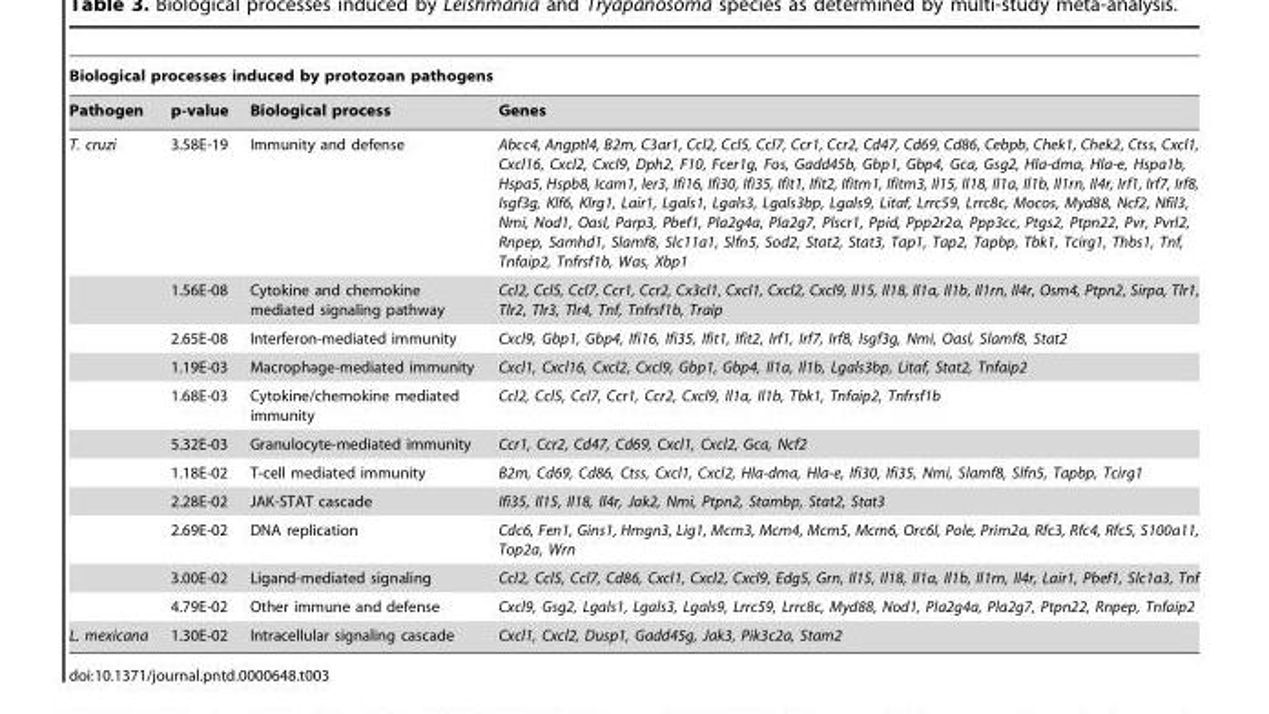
<table><thead><tr><td colspan="4">Biological processes induced by protozoan pathogens</td></tr><tr><td>Pathogen</td><td>p-value</td><td>Biological process</td><td>Genes</td></tr></thead><tbody><tr><td rowspan="11">T. cruzi</td><td>3.58E-19</td><td>Immunity and defense</td><td>Abcc4, Angptl4, B2m, C3ar1, Ccl2, Ccl5, Ccl7, Ccr1, Ccr2, Cd47, Cd69, Cd86, Cebpb, Chek1, Chek2, Ctss, Cxcl1, Cxcl16, Cxcl2, Cxcl9, Dph2, F10, Fcer1g, Fos, Gadd45b, Gbp1, Gbp4, Gca, Gsg2, Hla-dma, Hla-e, Hspa1b, Hspa5, Hspb8, Icam1, Ier3, Ifi16, Ifi30, Ifi35, Ifit1, Ifit2, Ifitm1, Ifitm3, Il15, Il18, Il1a, Il1b, Il1rn, Il4r, Irf1, Irf7, Irf8, Isgf3g, Klf6, Klrg1, Lair1, Lgals1, Lgals3, Lgals3bp, Lgals9, Litaf, Lrrc59, Lrrc8c, Mocos, Myd88, Ncf2, Nfil3, Nmi, Nod1, Oasl, Parp3, Pbef1, Pla2g4a, Pla2g7, Plscr1, Ppid, Ppp2r2a, Ppp3cc, Ptgs2, Ptpn22, Pvr, Pvrl2, Rnpep, Samhd1, Slamf8, Slc11a1, Slfn5, Sod2, Stat2, Stat3, Tap1, Tap2, Tapbp, Tbk1, Tcirg1, Thbs1, Tnf, Tnfaip2, Tnfrsf1b, Was, Xbp1</td></tr><tr><td>1.56E-08</td><td>Cytokine and chemokine mediated signaling pathway</td><td>Ccl2, Ccl5, Ccl7, Ccr1, Ccr2, Cx3cl1, Cxcl1, Cxcl2, Cxcl9, Il15, Il18, Il1a, Il1b, Il1rn, Il4r, Osm4, Ptpn2, Sirpa, Tlr1, Tlr2, Tlr3, Tlr4, Tnf, Tnfrsf1b, Traip</td></tr><tr><td>2.65E-08</td><td>Interferon-mediated immunity</td><td>Cxcl9, Gbp1, Gbp4, Ifi16, Ifi35, Ifit1, Ifit2, Irf1, Irf7, Irf8, Isgf3g, Nmi, Oasl, Slamf8, Stat2</td></tr><tr><td>1.19E-03</td><td>Macrophage-mediated immunity</td><td>Cxcl1, Cxcl16, Cxcl2, Cxcl9, Gbp1, Gbp4, Il1a, Il1b, Lgals3bp, Litaf, Stat2, Tnfaip2</td></tr><tr><td>1.68E-03</td><td>Cytokine/chemokine mediated immunity</td><td>Ccl2, Ccl5, Ccl7, Ccr1, Ccr2, Cxcl9, Il1a, Il1b, Tbk1, Tnfaip2, Tnfrsf1b</td></tr><tr><td>5.32E-03</td><td>Granulocyte-mediated immunity</td><td>Ccr1, Ccr2, Cd47, Cd69, Cxcl1, Cxcl2, Gca, Ncf2</td></tr><tr><td>1.18E-02</td><td>T-cell mediated immunity</td><td>B2m, Cd69, Cd86, Ctss, Cxcl1, Cxcl2, Hla-dma, Hla-e, Ifi30, Ifi35, Nmi, Slamf8, Slfn5, Tapbp, Tcirg1</td></tr><tr><td>2.28E-02</td><td>JAK-STAT cascade</td><td>Ifi35, Il15, Il18, Il4r, Jak2, Nmi, Ptpn2, Stambp, Stat2, Stat3</td></tr><tr><td>2.69E-02</td><td>DNA replication</td><td>Cdc6, Fen1, Gins1, Hmgn3, Lig1, Mcm3, Mcm4, Mcm5, Mcm6, Orc6l, Pole, Prim2a, Rfc3, Rfc4, Rfc5, S100a11, Top2a, Wrn</td></tr><tr><td>3.00E-02</td><td>Ligand-mediated signaling</td><td>Ccl2, Ccl5, Ccl7, Cd86, Cxcl1, Cxcl2, Cxcl9, Edg5, Grn, Il15, Il18, Il1a, Il1b, Il1rn, Il4r, Lair1, Pbef1, Slc1a3, Tnf</td></tr><tr><td>4.79E-02</td><td>Other immune and defense</td><td>Cxcl9, Gsg2, Lgals1, Lgals3, Lgals9, Lrrc59, Lrrc8c, Myd88, Nod1, Pla2g4a, Pla2g7, Ptpn22, Rnpep, Tnfaip2</td></tr><tr><td>L. mexicana</td><td>1.30E-02</td><td>Intracellular signaling cascade</td><td>Cxcl1, Cxcl2, Dusp1, Gadd45g, Jak3, Pik3c2a, Stam2</td></tr></tbody></table>